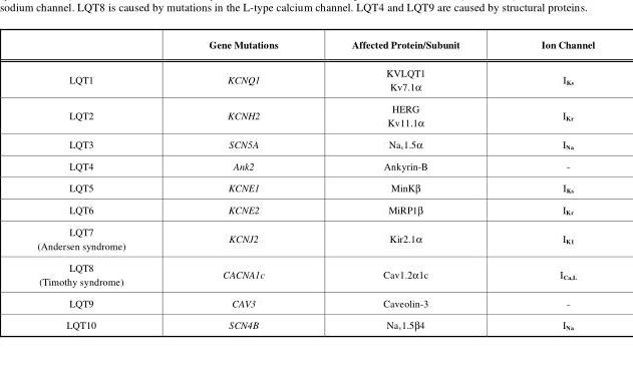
<table><thead><tr><td></td><td>Gene Mutations</td><td>Affected Protein/Subunit</td><td>Ion Channel</td></tr></thead><tbody><tr><td>LQT1</td><td>KCNQ1</td><td>KVLQT1 Kv7.1α</td><td>I<sub>Ks</sub></td></tr><tr><td>LQT2</td><td>KCNH2</td><td>HERG Kv11.1α</td><td>I<sub>Kr</sub></td></tr><tr><td>LQT3</td><td>SCN5A</td><td>Na<sub>v</sub>1.5α</td><td>I<sub>Na</sub></td></tr><tr><td>LQT4</td><td>Ank2</td><td>Ankyrin-B</td><td>-</td></tr><tr><td>LQT5</td><td>KCNE1</td><td>MinKβ</td><td>I<sub>Ks</sub></td></tr><tr><td>LQT6</td><td>KCNE2</td><td>MiRP1β</td><td>I<sub>Kr</sub></td></tr><tr><td>LQT7 (Andersen syndrome)</td><td>KCNJ2</td><td>Kir2.1α</td><td>I<sub>K1</sub></td></tr><tr><td>LQT8 (Timothy syndrome)</td><td>CACNA1c</td><td>Cav1.2α1c</td><td>I<sub>Ca,L</sub></td></tr><tr><td>LQT9</td><td>CAV3</td><td>Caveolin-3</td><td>-</td></tr><tr><td>LQT10</td><td>SCN4B</td><td>Na<sub>v</sub>1.5β4</td><td>I<sub>Na</sub></td></tr></tbody></table>